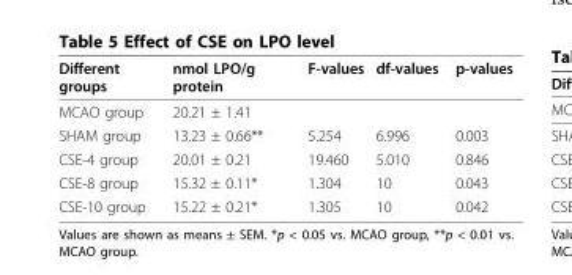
<table><thead><tr><td>Different groups</td><td>nmol LPO/g protein</td><td>F-values</td><td>df-values</td><td>p-values</td></tr></thead><tbody><tr><td>MCAO group</td><td>20.21 ± 1.41</td><td></td><td></td><td></td></tr><tr><td>SHAM group</td><td>13.23 ± 0.66**</td><td>5.254</td><td>6.996</td><td>0.003</td></tr><tr><td>CSE-4 group</td><td>20.01 ± 0.21</td><td>19.460</td><td>5.010</td><td>0.846</td></tr><tr><td>CSE-8 group</td><td>15.32 ± 0.11*</td><td>1.304</td><td>10</td><td>0.043</td></tr><tr><td>CSE-10 group</td><td>15.22 ± 0.21*</td><td>1.305</td><td>10</td><td>0.042</td></tr></tbody></table>